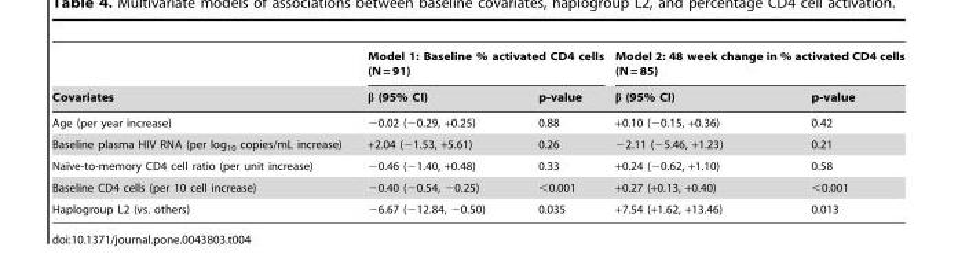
<table><thead><tr><td rowspan="2">Covariates</td><td colspan="2">Model 1: Baseline % activated CD4 cells (N = 91)</td><td colspan="2">Model 2: 48 week change in % activated CD4 cells (N = 85)</td></tr><tr><td>β (95% CI)</td><td>p-value</td><td>β (95% CI)</td><td>p-value</td></tr></thead><tbody><tr><td>Age (per year increase)</td><td>−0.02 (−0.29, +0.25)</td><td>0.88</td><td>+0.10 (−0.15, +0.36)</td><td>0.42</td></tr><tr><td>Baseline plasma HIV RNA (per log<sub>10</sub> copies/mL increase)</td><td>+2.04 (−1.53, +5.61)</td><td>0.26</td><td>−2.11 (−5.46, +1.23)</td><td>0.21</td></tr><tr><td>Naı¨ve-to-memory CD4 cell ratio (per unit increase)</td><td>−0.46 (−1.40, +0.48)</td><td>0.33</td><td>+0.24 (−0.62, +1.10)</td><td>0.58</td></tr><tr><td>Baseline CD4 cells (per 10 cell increase)</td><td>−0.40 (−0.54, −0.25)</td><td>&lt;0.001</td><td>+0.27 (+0.13, +0.40)</td><td>&lt;0.001</td></tr><tr><td>Haplogroup L2 (vs. others)</td><td>−6.67 (−12.84, −0.50)</td><td>0.035</td><td>+7.54 (+1.62, +13.46)</td><td>0.013</td></tr></tbody></table>